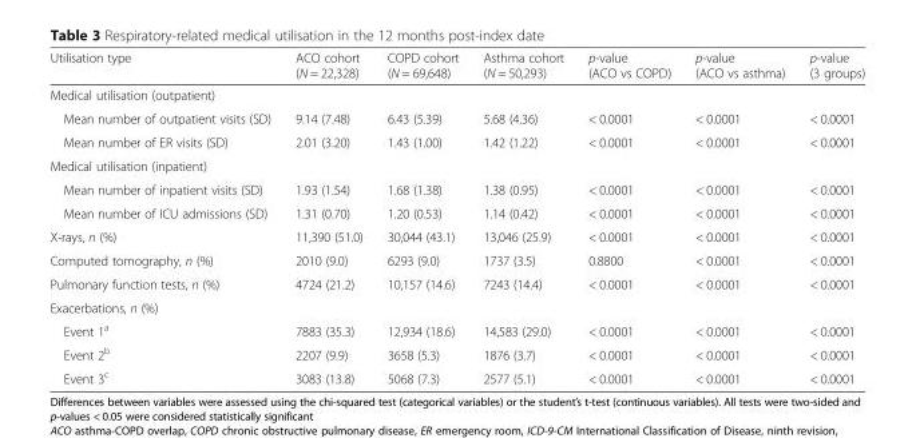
<table><thead><tr><td>Utilisation type</td><td>ACO cohort (N = 22,328)</td><td>COPD cohort (N = 69,648)</td><td>Asthma cohort (N = 50,293)</td><td>p-value (ACO vs COPD)</td><td>p-value (ACO vs asthma)</td><td>p-value (3 groups)</td></tr></thead><tbody><tr><td colspan="7">Medical utilisation (outpatient)</td></tr><tr><td>Mean number of outpatient visits (SD)</td><td>9.14 (7.48)</td><td>6.43 (5.39)</td><td>5.68 (4.36)</td><td>&lt; 0.0001</td><td>&lt; 0.0001</td><td>&lt; 0.0001</td></tr><tr><td>Mean number of ER visits (SD)</td><td>2.01 (3.20)</td><td>1.43 (1.00)</td><td>1.42 (1.22)</td><td>&lt; 0.0001</td><td>&lt; 0.0001</td><td>&lt; 0.0001</td></tr><tr><td colspan="7">Medical utilisation (inpatient)</td></tr><tr><td>Mean number of inpatient visits (SD)</td><td>1.93 (1.54)</td><td>1.68 (1.38)</td><td>1.38 (0.95)</td><td>&lt; 0.0001</td><td>&lt; 0.0001</td><td>&lt; 0.0001</td></tr><tr><td>Mean number of ICU admissions (SD)</td><td>1.31 (0.70)</td><td>1.20 (0.53)</td><td>1.14 (0.42)</td><td>&lt; 0.0001</td><td>&lt; 0.0001</td><td>&lt; 0.0001</td></tr><tr><td>X-rays, n (%)</td><td>11,390 (51.0)</td><td>30,044 (43.1)</td><td>13,046 (25.9)</td><td>&lt; 0.0001</td><td>&lt; 0.0001</td><td>&lt; 0.0001</td></tr><tr><td>Computed tomography, n (%)</td><td>2010 (9.0)</td><td>6293 (9.0)</td><td>1737 (3.5)</td><td>0.8800</td><td>&lt; 0.0001</td><td>&lt; 0.0001</td></tr><tr><td>Pulmonary function tests, n (%)</td><td>4724 (21.2)</td><td>10,157 (14.6)</td><td>7243 (14.4)</td><td>&lt; 0.0001</td><td>&lt; 0.0001</td><td>&lt; 0.0001</td></tr><tr><td colspan="7">Exacerbations, n (%)</td></tr><tr><td>Event 1<sup>a</sup></td><td>7883 (35.3)</td><td>12,934 (18.6)</td><td>14,583 (29.0)</td><td>&lt; 0.0001</td><td>&lt; 0.0001</td><td>&lt; 0.0001</td></tr><tr><td>Event 2<sup>b</sup></td><td>2207 (9.9)</td><td>3658 (5.3)</td><td>1876 (3.7)</td><td>&lt; 0.0001</td><td>&lt; 0.0001</td><td>&lt; 0.0001</td></tr><tr><td>Event 3<sup>c</sup></td><td>3083 (13.8)</td><td>5068 (7.3)</td><td>2577 (5.1)</td><td>&lt; 0.0001</td><td>&lt; 0.0001</td><td>&lt; 0.0001</td></tr></tbody></table>